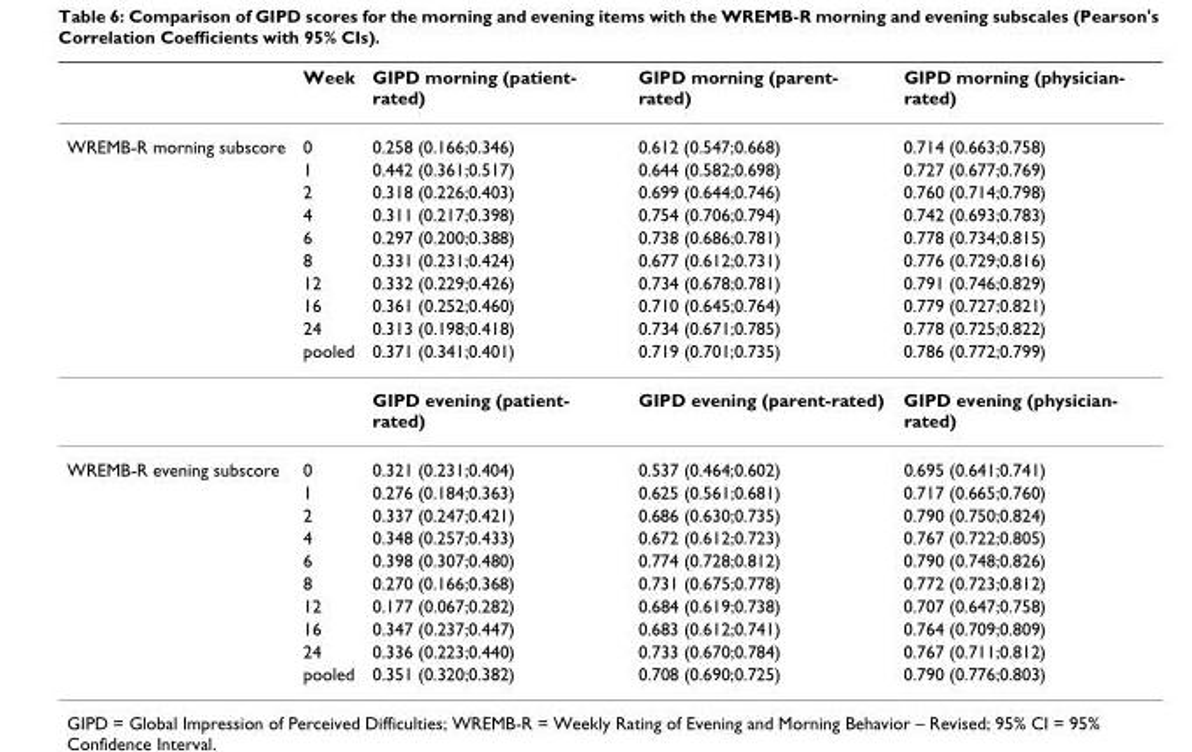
<table><thead><tr><td></td><td>Week</td><td>GIPD morning (patient- rated)</td><td>GIPD morning (parent- rated)</td><td>GIPD morning (physician- rated)</td></tr></thead><tbody><tr><td rowspan="11">WREMB-R morning subscore</td><td>0</td><td>0.258 (0.166;0.346)</td><td>0.612 (0.547;0.668)</td><td>0.714 (0.663;0.758)</td></tr><tr><td>1</td><td>0.442 (0.361;0.517)</td><td>0.644 (0.582;0.698)</td><td>0.727 (0.677;0.769)</td></tr><tr><td>2</td><td>0.318 (0.226;0.403)</td><td>0.699 (0.644;0.746)</td><td>0.760 (0.714;0.798)</td></tr><tr><td>4</td><td>0.311 (0.217;0.398)</td><td>0.754 (0.706;0.794)</td><td>0.742 (0.693;0.783)</td></tr><tr><td>6</td><td>0.297 (0.200;0.388)</td><td>0.738 (0.686;0.781)</td><td>0.778 (0.734;0.815)</td></tr><tr><td>8</td><td>0.331 (0.231;0.424)</td><td>0.677 (0.612;0.731)</td><td>0.776 (0.729;0.816)</td></tr><tr><td>12</td><td>0.332 (0.229;0.426)</td><td>0.734 (0.678;0.781)</td><td>0.791 (0.746;0.829)</td></tr><tr><td>16</td><td>0.361 (0.252;0.460)</td><td>0.710 (0.645;0.764)</td><td>0.779 (0.727;0.821)</td></tr><tr><td>24</td><td>0.313 (0.198;0.418)</td><td>0.734 (0.671;0.785)</td><td>0.778 (0.725;0.822)</td></tr><tr><td>pooled</td><td>0.371 (0.341;0.401)</td><td>0.719 (0.701;0.735)</td><td>0.786 (0.772;0.799)</td></tr><tr><td></td><td>GIPD evening (patient- rated)</td><td>GIPD evening (parent-rated)</td><td>GIPD evening (physician- rated)</td></tr><tr><td rowspan="10">WREMB-R evening subscore</td><td>0</td><td>0.321 (0.231;0.404)</td><td>0.537 (0.464;0.602)</td><td>0.695 (0.641;0.741)</td></tr><tr><td>1</td><td>0.276 (0.184;0.363)</td><td>0.625 (0.561;0.681)</td><td>0.717 (0.665;0.760)</td></tr><tr><td>2</td><td>0.337 (0.247;0.421)</td><td>0.686 (0.630;0.735)</td><td>0.790 (0.750;0.824)</td></tr><tr><td>4</td><td>0.348 (0.257;0.433)</td><td>0.672 (0.612;0.723)</td><td>0.767 (0.722;0.805)</td></tr><tr><td>6</td><td>0.398 (0.307;0.480)</td><td>0.774 (0.728;0.812)</td><td>0.790 (0.748;0.826)</td></tr><tr><td>8</td><td>0.270 (0.166;0.368)</td><td>0.731 (0.675;0.778)</td><td>0.772 (0.723;0.812)</td></tr><tr><td>12</td><td>0.177 (0.067;0.282)</td><td>0.684 (0.619;0.738)</td><td>0.707 (0.647;0.758)</td></tr><tr><td>16</td><td>0.347 (0.237;0.447)</td><td>0.683 (0.612;0.741)</td><td>0.764 (0.709;0.809)</td></tr><tr><td>24</td><td>0.336 (0.223;0.440)</td><td>0.733 (0.670;0.784)</td><td>0.767 (0.711;0.812)</td></tr><tr><td>pooled</td><td>0.351 (0.320;0.382)</td><td>0.708 (0.690;0.725)</td><td>0.790 (0.776;0.803)</td></tr></tbody></table>